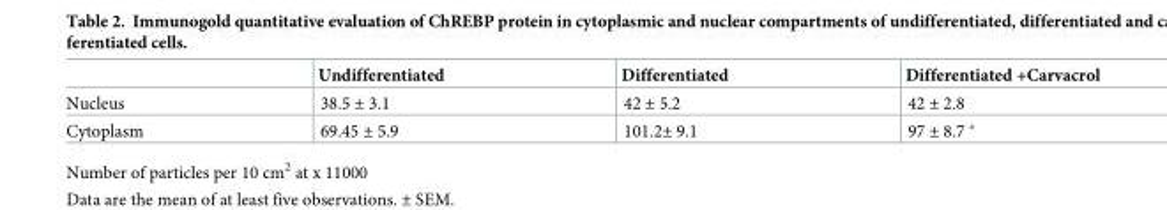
<table><thead><tr><td></td><td>Undifferentiated</td><td>Differentiated</td><td>Differentiated +Carvacrol</td></tr></thead><tbody><tr><td>Nucleus</td><td>38.5 ± 3.1</td><td>42 ± 5.2</td><td>42 ± 2.8</td></tr><tr><td>Cytoplasm</td><td>69.45 ± 5.9</td><td>101.2± 9.1</td><td>97 ± 8.7 *</td></tr></tbody></table>